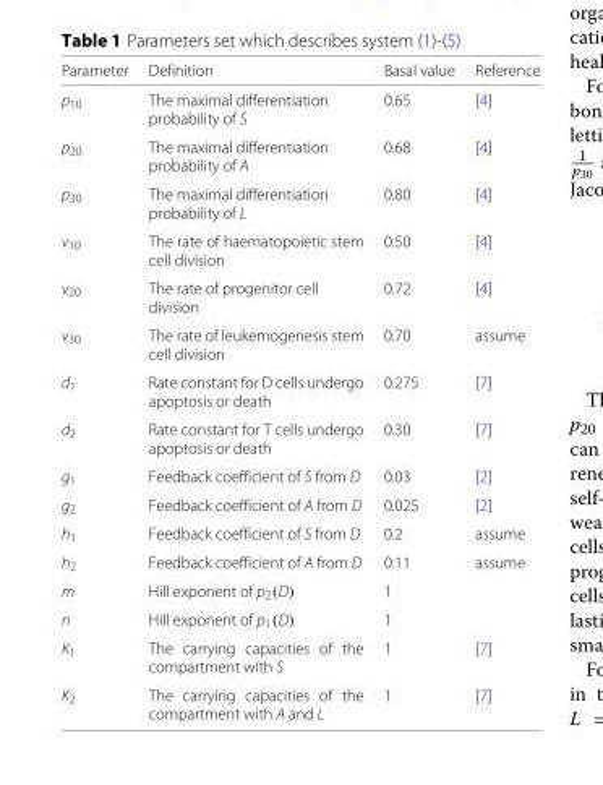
<table><thead><tr><td>Parameter</td><td>Definition</td><td>Basal value</td><td>Reference</td></tr></thead><tbody><tr><td>p<sub>10</sub></td><td>The maximal differentiation probability of S</td><td>0.65</td><td>[4]</td></tr><tr><td>p<sub>20</sub></td><td>The maximal differentiation probability of A</td><td>0.68</td><td>[4]</td></tr><tr><td>p<sub>30</sub></td><td>The maximal differentiation probability of L</td><td>0.80</td><td>[4]</td></tr><tr><td>v<sub>10</sub></td><td>The rate of haematopoietic stem cell division</td><td>0.50</td><td>[4]</td></tr><tr><td>v<sub>20</sub></td><td>The rate of progenitor cell division</td><td>0.72</td><td>[4]</td></tr><tr><td>v<sub>30</sub></td><td>The rate of leukemogenesis stem cell division</td><td>0.70</td><td>assume</td></tr><tr><td>d<sub>1</sub></td><td>Rate constant for D cells undergo apoptosis or death</td><td>0.275</td><td>[7]</td></tr><tr><td>d<sub>2</sub></td><td>Rate constant for T cells undergo apoptosis or death</td><td>0.30</td><td>[7]</td></tr><tr><td>g<sub>1</sub></td><td>Feedback coefficient of S from D</td><td>0.03</td><td>[2]</td></tr><tr><td>g<sub>2</sub></td><td>Feedback coefficient of A from D</td><td>0.025</td><td>[2]</td></tr><tr><td>h<sub>1</sub></td><td>Feedback coefficient of S from D</td><td>0.2</td><td>assume</td></tr><tr><td>h<sub>2</sub></td><td>Feedback coefficient of A from D</td><td>0.11</td><td>assume</td></tr><tr><td>m</td><td>Hill exponent of p<sub>2</sub>(D)</td><td>1</td><td></td></tr><tr><td>n</td><td>Hill exponent of p<sub>1</sub>(D)</td><td>1</td><td></td></tr><tr><td>K<sub>1</sub></td><td>The carrying capacities of the compartment with S</td><td>1</td><td>[7]</td></tr><tr><td>K<sub>2</sub></td><td>The carrying capacities of the compartment with A and L</td><td>1</td><td>[7]</td></tr></tbody></table>